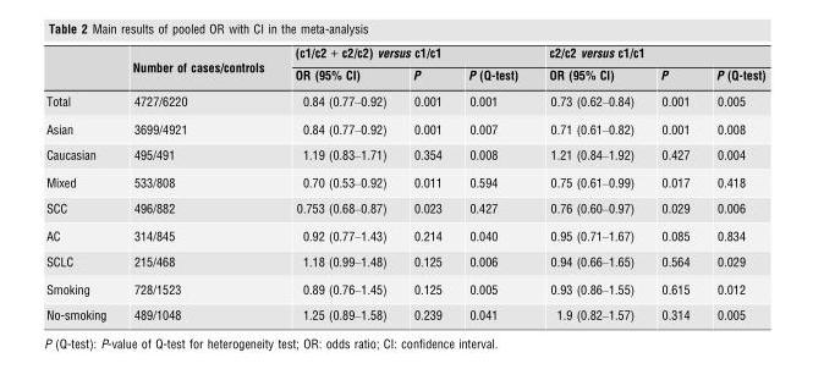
<table><thead><tr><td rowspan="2"></td><td rowspan="2">Number of cases/controls</td><td colspan="3">(c1/c2 + c2/c2) versus c1/c1</td><td colspan="3">c2/c2 versus c1/c1</td></tr><tr><td>OR (95% CI)</td><td>P</td><td>P (Q-test)</td><td>OR (95% CI)</td><td>P</td><td>P (Q-test)</td></tr></thead><tbody><tr><td>Total</td><td>4727/6220</td><td>0.84 (0.77–0.92)</td><td>0.001</td><td>0.001</td><td>0.73 (0.62–0.84)</td><td>0.001</td><td>0.005</td></tr><tr><td>Asian</td><td>3699/4921</td><td>0.84 (0.77–0.92)</td><td>0.001</td><td>0.007</td><td>0.71 (0.61–0.82)</td><td>0.001</td><td>0.008</td></tr><tr><td>Caucasian</td><td>495/491</td><td>1.19 (0.83–1.71)</td><td>0.354</td><td>0.008</td><td>1.21 (0.84–1.92)</td><td>0.427</td><td>0.004</td></tr><tr><td>Mixed</td><td>533/808</td><td>0.70 (0.53–0.92)</td><td>0.011</td><td>0.594</td><td>0.75 (0.61–0.99)</td><td>0.017</td><td>0.418</td></tr><tr><td>SCC</td><td>496/882</td><td>0.753 (0.68–0.87)</td><td>0.023</td><td>0.427</td><td>0.76 (0.60–0.97)</td><td>0.029</td><td>0.006</td></tr><tr><td>AC</td><td>314/845</td><td>0.92 (0.77–1.43)</td><td>0.214</td><td>0.040</td><td>0.95 (0.71–1.67)</td><td>0.085</td><td>0.834</td></tr><tr><td>SCLC</td><td>215/468</td><td>1.18 (0.99–1.48)</td><td>0.125</td><td>0.006</td><td>0.94 (0.66–1.65)</td><td>0.564</td><td>0.029</td></tr><tr><td>Smoking</td><td>728/1523</td><td>0.89 (0.76–1.45)</td><td>0.125</td><td>0.005</td><td>0.93 (0.86–1.55)</td><td>0.615</td><td>0.012</td></tr><tr><td>No-smoking</td><td>489/1048</td><td>1.25 (0.89–1.58)</td><td>0.239</td><td>0.041</td><td>1.9 (0.82–1.57)</td><td>0.314</td><td>0.005</td></tr></tbody></table>